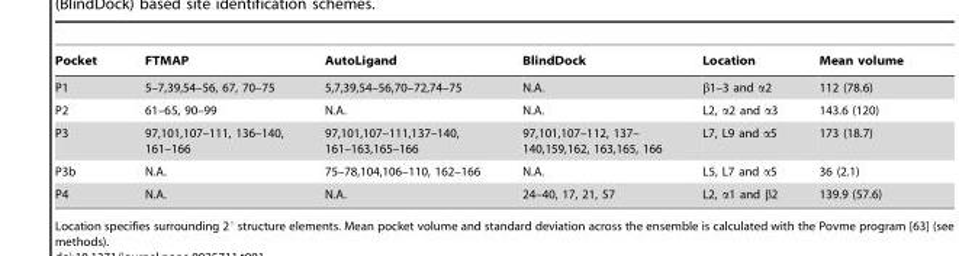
<table><thead><tr><td>Pocket</td><td>FTMAP</td><td>AutoLigand</td><td>BlindDock</td><td>Location</td><td>Mean volume</td></tr></thead><tbody><tr><td>P1</td><td>5–7,39,54–56, 67, 70–75</td><td>5,7,39,54–56,70–72,74–75</td><td>N.A.</td><td>β1–3 and α2</td><td>112 (78.6)</td></tr><tr><td>P2</td><td>61–65, 90–99</td><td>N.A.</td><td>N.A.</td><td>L2, α2 and α3</td><td>143.6 (120)</td></tr><tr><td>P3</td><td>97,101,107–111, 136–140, 161–166</td><td>97,101,107–111,137–140, 161–163,165–166</td><td>97,101,107–112, 137– 140,159,162, 163,165, 166</td><td>L7, L9 and α5</td><td>173 (18.7)</td></tr><tr><td>P3b</td><td>N.A.</td><td>75–78,104,106–110, 162–166</td><td>N.A.</td><td>L5, L7 and α5</td><td>36 (2.1)</td></tr><tr><td>P4</td><td>N.A.</td><td>N.A.</td><td>24–40, 17, 21, 57</td><td>L2, α1 and β2</td><td>139.9 (57.6)</td></tr></tbody></table>